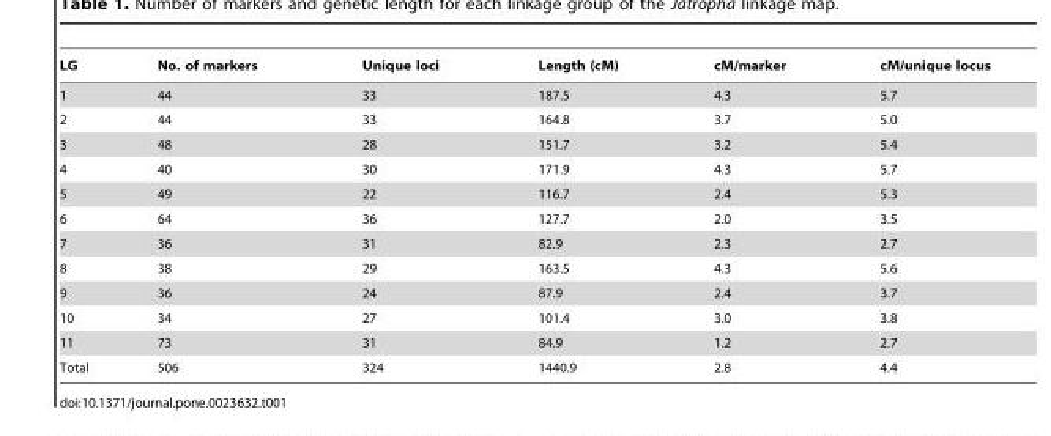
<table><thead><tr><td>LG</td><td>No. of markers</td><td>Unique loci</td><td>Length (cM)</td><td>cM/marker</td><td>cM/unique locus</td></tr></thead><tbody><tr><td>1</td><td>44</td><td>33</td><td>187.5</td><td>4.3</td><td>5.7</td></tr><tr><td>2</td><td>44</td><td>33</td><td>164.8</td><td>3.7</td><td>5.0</td></tr><tr><td>3</td><td>48</td><td>28</td><td>151.7</td><td>3.2</td><td>5.4</td></tr><tr><td>4</td><td>40</td><td>30</td><td>171.9</td><td>4.3</td><td>5.7</td></tr><tr><td>5</td><td>49</td><td>22</td><td>116.7</td><td>2.4</td><td>5.3</td></tr><tr><td>6</td><td>64</td><td>36</td><td>127.7</td><td>2.0</td><td>3.5</td></tr><tr><td>7</td><td>36</td><td>31</td><td>82.9</td><td>2.3</td><td>2.7</td></tr><tr><td>8</td><td>38</td><td>29</td><td>163.5</td><td>4.3</td><td>5.6</td></tr><tr><td>9</td><td>36</td><td>24</td><td>87.9</td><td>2.4</td><td>3.7</td></tr><tr><td>10</td><td>34</td><td>27</td><td>101.4</td><td>3.0</td><td>3.8</td></tr><tr><td>11</td><td>73</td><td>31</td><td>84.9</td><td>1.2</td><td>2.7</td></tr><tr><td>Total</td><td>506</td><td>324</td><td>1440.9</td><td>2.8</td><td>4.4</td></tr></tbody></table>